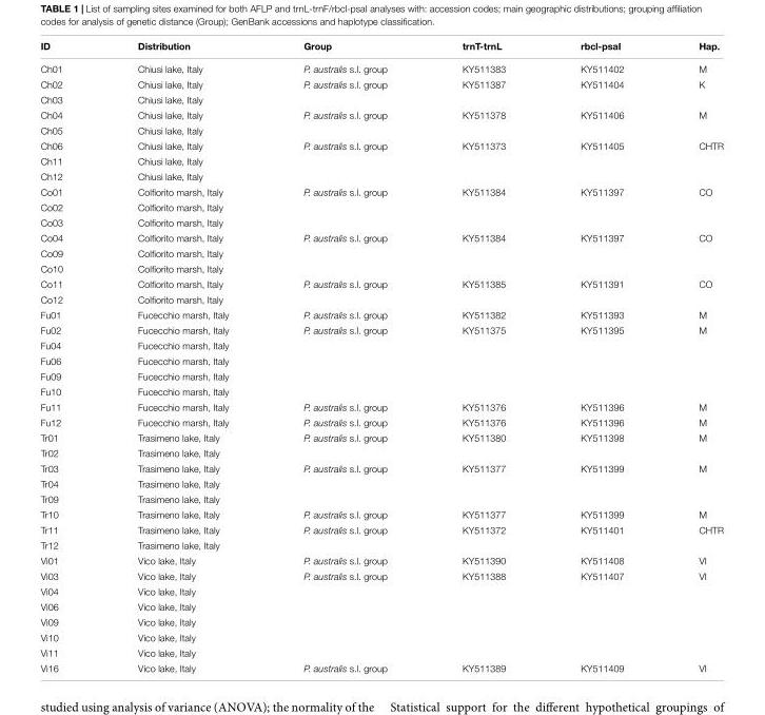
<table><thead><tr><td>ID</td><td>Distribution</td><td>Group</td><td>trnT-trnL</td><td>rbcl-psaI</td><td>Hap.</td></tr></thead><tbody><tr><td>Ch01</td><td>Chiusi lake, Italy</td><td>P. australis s.l. group</td><td>KY511383</td><td>KY511402</td><td>M</td></tr><tr><td>Ch02</td><td>Chiusi lake, Italy</td><td>P. australis s.l. group</td><td>KY511387</td><td>KY511404</td><td>K</td></tr><tr><td>Ch03</td><td>Chiusi lake, Italy</td><td></td><td></td><td></td><td></td></tr><tr><td>Ch04</td><td>Chiusi lake, Italy</td><td>P. australis s.l. group</td><td>KY511378</td><td>KY511406</td><td>M</td></tr><tr><td>Ch05</td><td>Chiusi lake, Italy</td><td></td><td></td><td></td><td></td></tr><tr><td>Ch06</td><td>Chiusi lake, Italy</td><td>P. australis s.l. group</td><td>KY511373</td><td>KY511405</td><td>CHTR</td></tr><tr><td>Ch11</td><td>Chiusi lake, Italy</td><td></td><td></td><td></td><td></td></tr><tr><td>Ch12</td><td>Chiusi lake, Italy</td><td></td><td></td><td></td><td></td></tr><tr><td>Co01</td><td>Colfiorito marsh, Italy</td><td>P. australis s.l. group</td><td>KY511384</td><td>KY511397</td><td>CO</td></tr><tr><td>Co02</td><td>Colfiorito marsh, Italy</td><td></td><td></td><td></td><td></td></tr><tr><td>Co03</td><td>Colfiorito marsh, Italy</td><td></td><td></td><td></td><td></td></tr><tr><td>Co04</td><td>Colfiorito marsh, Italy</td><td>P. australis s.l. group</td><td>KY511384</td><td>KY511397</td><td>CO</td></tr><tr><td>Co09</td><td>Colfiorito marsh, Italy</td><td></td><td></td><td></td><td></td></tr><tr><td>Co10</td><td>Colfiorito marsh, Italy</td><td></td><td></td><td></td><td></td></tr><tr><td>Co11</td><td>Colfiorito marsh, Italy</td><td>P. australis s.l. group</td><td>KY511385</td><td>KY511391</td><td>CO</td></tr><tr><td>Co12</td><td>Colfiorito marsh, Italy</td><td></td><td></td><td></td><td></td></tr><tr><td>Fu01</td><td>Fucecchio marsh, Italy</td><td>P. australis s.l. group</td><td>KY511382</td><td>KY511393</td><td>M</td></tr><tr><td>Fu02</td><td>Fucecchio marsh, Italy</td><td>P. australis s.l. group</td><td>KY511375</td><td>KY511395</td><td>M</td></tr><tr><td>Fu04</td><td>Fucecchio marsh, Italy</td><td></td><td></td><td></td><td></td></tr><tr><td>Fu06</td><td>Fucecchio marsh, Italy</td><td></td><td></td><td></td><td></td></tr><tr><td>Fu09</td><td>Fucecchio marsh, Italy</td><td></td><td></td><td></td><td></td></tr><tr><td>Fu10</td><td>Fucecchio marsh, Italy</td><td></td><td></td><td></td><td></td></tr><tr><td>Fu11</td><td>Fucecchio marsh, Italy</td><td>P. australis s.l. group</td><td>KY511376</td><td>KY511396</td><td>M</td></tr><tr><td>Fu12</td><td>Fucecchio marsh, Italy</td><td>P. australis s.l. group</td><td>KY511376</td><td>KY511396</td><td>M</td></tr><tr><td>Tr01</td><td>Trasimeno lake, Italy</td><td>P. australis s.l. group</td><td>KY511380</td><td>KY511398</td><td>M</td></tr><tr><td>Tr02</td><td>Trasimeno lake, Italy</td><td></td><td></td><td></td><td></td></tr><tr><td>Tr03</td><td>Trasimeno lake, Italy</td><td>P. australis s.l. group</td><td>KY511377</td><td>KY511399</td><td>M</td></tr><tr><td>Tr04</td><td colspan="3">Trasimeno lake, Italy</td><td></td><td></td></tr><tr><td>Tr09</td><td>Trasimeno lake, Italy</td><td></td><td></td><td></td><td></td></tr><tr><td>Tr10</td><td>Trasimeno lake, Italy</td><td>P. australis s.l. group</td><td>KY511377</td><td>KY511399</td><td>M</td></tr><tr><td>Tr11</td><td>Trasimeno lake, Italy</td><td>P. australis s.l. group</td><td>KY511372</td><td>KY511401</td><td>CHTR</td></tr><tr><td>Tr12</td><td>Trasimeno lake, Italy</td><td></td><td></td><td></td><td></td></tr><tr><td>Vi01</td><td>Vico lake, Italy</td><td>P. australis s.l. group</td><td>KY511390</td><td>KY511408</td><td>VI</td></tr><tr><td>Vi03</td><td>Vico lake, Italy</td><td>P. australis s.l. group</td><td>KY511388</td><td>KY511407</td><td>VI</td></tr><tr><td>Vi04</td><td>Vico lake, Italy</td><td></td><td></td><td></td><td></td></tr><tr><td>Vi06</td><td colspan="2">Vico lake, Italy</td><td></td><td></td><td></td></tr><tr><td>Vi09</td><td colspan="2">Vico lake, Italy</td><td></td><td></td><td></td></tr><tr><td>Vi10</td><td colspan="2">Vico lake, Italy</td><td></td><td></td><td></td></tr><tr><td>Vi11</td><td colspan="2">Vico lake, Italy</td><td></td><td></td><td></td></tr><tr><td>Vi16</td><td>Vico lake, Italy</td><td>P. australis s.l. group</td><td>KY511389</td><td>KY511409</td><td>VI</td></tr></tbody></table>